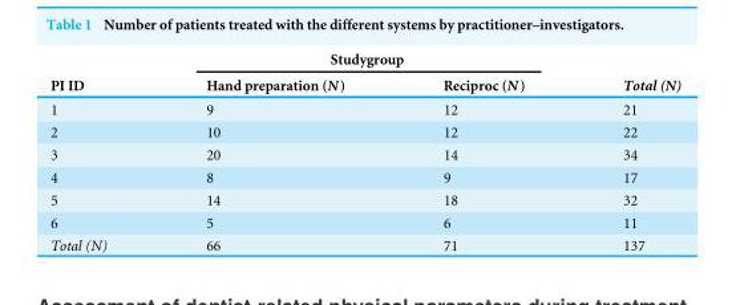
<table><thead><tr><td rowspan="2">PI ID</td><td colspan="2">Studygroup</td><td rowspan="2">Total (N)</td></tr><tr><td>Hand preparation (N)</td><td>Reciproc (N)</td></tr></thead><tbody><tr><td>1</td><td>9</td><td>12</td><td>21</td></tr><tr><td>2</td><td>10</td><td>12</td><td>22</td></tr><tr><td>3</td><td>20</td><td>14</td><td>34</td></tr><tr><td>4</td><td>8</td><td>9</td><td>17</td></tr><tr><td>5</td><td>14</td><td>18</td><td>32</td></tr><tr><td>6</td><td>5</td><td>6</td><td>11</td></tr><tr><td>Total (N)</td><td>66</td><td>71</td><td>137</td></tr></tbody></table>